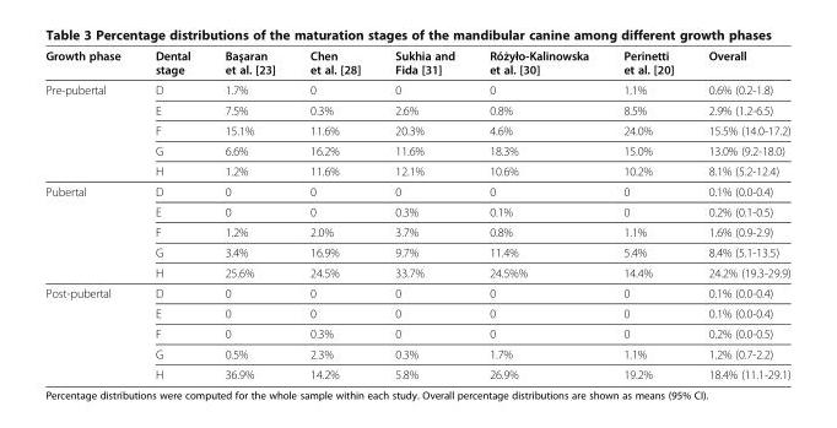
<table><thead><tr><td>Growth phase</td><td>Dental stage</td><td>Başaran et al. [23]</td><td>Chen et al. [28]</td><td>Sukhia and Fida [31]</td><td>Różyło-Kalinowska et al. [30]</td><td>Perinetti et al. [20]</td><td>Overall</td></tr></thead><tbody><tr><td rowspan="5">Pre-pubertal</td><td>D</td><td>1.7%</td><td>0</td><td>0</td><td>0</td><td>1.1%</td><td>0.6% (0.2-1.8)</td></tr><tr><td>E</td><td>7.5%</td><td>0.3%</td><td>2.6%</td><td>0.8%</td><td>8.5%</td><td>2.9% (1.2-6.5)</td></tr><tr><td>F</td><td>15.1%</td><td>11.6%</td><td>20.3%</td><td>4.6%</td><td>24.0%</td><td>15.5% (14.0-17.2)</td></tr><tr><td>G</td><td>6.6%</td><td>16.2%</td><td>11.6%</td><td>18.3%</td><td>15.0%</td><td>13.0% (9.2-18.0)</td></tr><tr><td>H</td><td>1.2%</td><td>11.6%</td><td>12.1%</td><td>10.6%</td><td>10.2%</td><td>8.1% (5.2-12.4)</td></tr><tr><td rowspan="5">Pubertal</td><td>D</td><td>0</td><td>0</td><td>0</td><td>0</td><td>0</td><td>0.1% (0.0-0.4)</td></tr><tr><td>E</td><td>0</td><td>0</td><td>0.3%</td><td>0.1%</td><td>0</td><td>0.2% (0.1-0.5)</td></tr><tr><td>F</td><td>1.2%</td><td>2.0%</td><td>3.7%</td><td>0.8%</td><td>1.1%</td><td>1.6% (0.9-2.9)</td></tr><tr><td>G</td><td>3.4%</td><td>16.9%</td><td>9.7%</td><td>11.4%</td><td>5.4%</td><td>8.4% (5.1-13.5)</td></tr><tr><td>H</td><td>25.6%</td><td>24.5%</td><td>33.7%</td><td>24.5%%</td><td>14.4%</td><td>24.2% (19.3-29.9)</td></tr><tr><td rowspan="5">Post-pubertal</td><td>D</td><td>0</td><td>0</td><td>0</td><td>0</td><td>0</td><td>0.1% (0.0-0.4)</td></tr><tr><td>E</td><td>0</td><td>0</td><td>0</td><td>0</td><td>0</td><td>0.1% (0.0-0.4)</td></tr><tr><td>F</td><td>0</td><td>0.3%</td><td>0</td><td>0</td><td>0</td><td>0.2% (0.0-0.5)</td></tr><tr><td>G</td><td>0.5%</td><td>2.3%</td><td>0.3%</td><td>1.7%</td><td>1.1%</td><td>1.2% (0.7-2.2)</td></tr><tr><td>H</td><td>36.9%</td><td>14.2%</td><td>5.8%</td><td>26.9%</td><td>19.2%</td><td>18.4% (11.1-29.1)</td></tr></tbody></table>